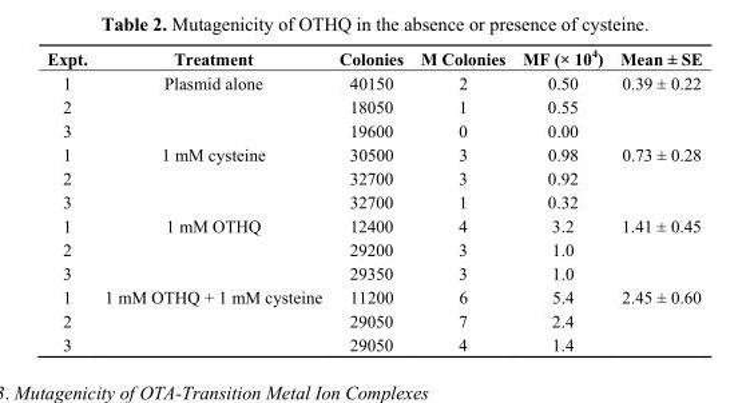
<table><thead><tr><td>Expt.</td><td>Treatment</td><td>Colonies</td><td>M Colonies</td><td>MF (× 10<sup>4</sup>)</td><td>Mean ± SE</td></tr></thead><tbody><tr><td>1</td><td>Plasmid alone</td><td>40150</td><td>2</td><td>0.50</td><td>0.39 ± 0.22</td></tr><tr><td>2</td><td></td><td>18050</td><td>1</td><td>0.55</td><td></td></tr><tr><td>3</td><td></td><td>19600</td><td>0</td><td>0.00</td><td></td></tr><tr><td>1</td><td>1 mM cysteine</td><td>30500</td><td>3</td><td>0.98</td><td>0.73 ± 0.28</td></tr><tr><td>2</td><td></td><td>32700</td><td>3</td><td>0.92</td><td></td></tr><tr><td>3</td><td></td><td>32700</td><td>1</td><td>0.32</td><td></td></tr><tr><td>1</td><td>1 mM OTHQ</td><td>12400</td><td>4</td><td>3.2</td><td>1.41 ± 0.45</td></tr><tr><td>2</td><td></td><td>29200</td><td>3</td><td>1.0</td><td></td></tr><tr><td>3</td><td></td><td>29350</td><td>3</td><td>1.0</td><td></td></tr><tr><td>1</td><td>1 mM OTHQ + 1 mM cysteine</td><td>11200</td><td>6</td><td>5.4</td><td>2.45 ± 0.60</td></tr><tr><td>2</td><td></td><td>29050</td><td>7</td><td>2.4</td><td></td></tr><tr><td>3</td><td></td><td>29050</td><td>4</td><td>1.4</td><td></td></tr></tbody></table>